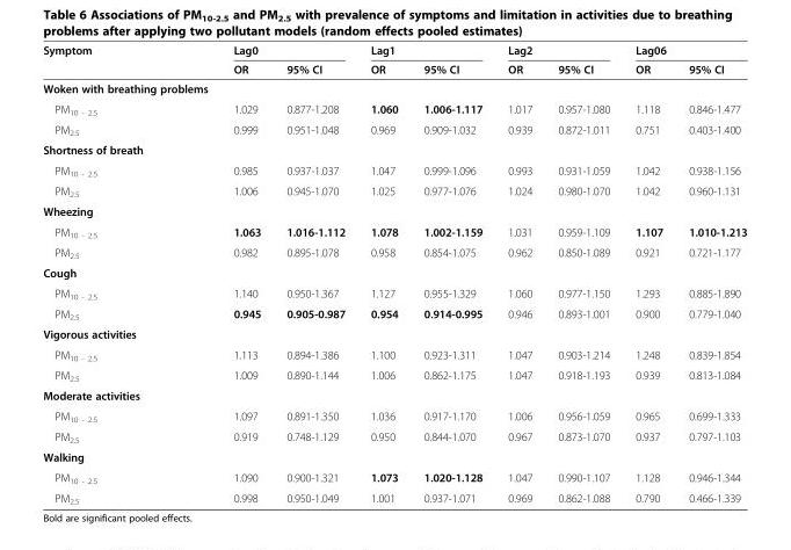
<table><thead><tr><td rowspan="2">Symptom</td><td colspan="2">Lag0</td><td colspan="2">Lag1</td><td colspan="2">Lag2</td><td colspan="2">Lag06</td></tr><tr><td>OR</td><td>95% CI</td><td>OR</td><td>95% CI</td><td>OR</td><td>95% CI</td><td>OR</td><td>95% CI</td></tr></thead><tbody><tr><td colspan="9">Woken with breathing problems</td></tr><tr><td>PM<sub>10 - 2.5</sub></td><td>1.029</td><td>0.877-1.208</td><td>1.060</td><td>1.006-1.117</td><td>1.017</td><td>0.957-1.080</td><td>1.118</td><td>0.846-1.477</td></tr><tr><td>PM<sub>2.5</sub></td><td>0.999</td><td>0.951-1.048</td><td>0.969</td><td>0.909-1.032</td><td>0.939</td><td>0.872-1.011</td><td>0.751</td><td>0.403-1.400</td></tr><tr><td colspan="9">Shortness of breath</td></tr><tr><td>PM<sub>10 - 2.5</sub></td><td>0.985</td><td>0.937-1.037</td><td>1.047</td><td>0.999-1.096</td><td>0.993</td><td>0.931-1.059</td><td>1.042</td><td>0.938-1.156</td></tr><tr><td>PM<sub>2.5</sub></td><td>1.006</td><td>0.945-1.070</td><td>1.025</td><td>0.977-1.076</td><td>1.024</td><td>0.980-1.070</td><td>1.042</td><td>0.960-1.131</td></tr><tr><td colspan="9">Wheezing</td></tr><tr><td>PM<sub>10 - 2.5</sub></td><td>1.063</td><td>1.016-1.112</td><td>1.078</td><td>1.002-1.159</td><td>1.031</td><td>0.959-1.109</td><td>1.107</td><td>1.010-1.213</td></tr><tr><td>PM<sub>2.5</sub></td><td>0.982</td><td>0.895-1.078</td><td>0.958</td><td>0.854-1.075</td><td>0.962</td><td>0.850-1.089</td><td>0.921</td><td>0.721-1.177</td></tr><tr><td colspan="9">Cough</td></tr><tr><td>PM<sub>10 - 2.5</sub></td><td>1.140</td><td>0.950-1.367</td><td>1.127</td><td>0.955-1.329</td><td>1.060</td><td>0.977-1.150</td><td>1.293</td><td>0.885-1.890</td></tr><tr><td>PM<sub>2.5</sub></td><td>0.945</td><td>0.905-0.987</td><td>0.954</td><td>0.914-0.995</td><td>0.946</td><td>0.893-1.001</td><td>0.900</td><td>0.779-1.040</td></tr><tr><td colspan="9">Vigorous activities</td></tr><tr><td>PM<sub>10 - 2.5</sub></td><td>1.113</td><td>0.894-1.386</td><td>1.100</td><td>0.923-1.311</td><td>1.047</td><td>0.903-1.214</td><td>1.248</td><td>0.839-1.854</td></tr><tr><td>PM<sub>2.5</sub></td><td>1.009</td><td>0.890-1.144</td><td>1.006</td><td>0.862-1.175</td><td>1.047</td><td>0.918-1.193</td><td>0.939</td><td>0.813-1.084</td></tr><tr><td colspan="9">Moderate activities</td></tr><tr><td>PM<sub>10 - 2.5</sub></td><td>1.097</td><td>0.891-1.350</td><td>1.036</td><td>0.917-1.170</td><td>1.006</td><td>0.956-1.059</td><td>0.965</td><td>0.699-1.333</td></tr><tr><td>PM<sub>2.5</sub></td><td>0.919</td><td>0.748-1.129</td><td>0.950</td><td>0.844-1.070</td><td>0.967</td><td>0.873-1.070</td><td>0.937</td><td>0.797-1.103</td></tr><tr><td colspan="9">Walking</td></tr><tr><td>PM<sub>10 - 2.5</sub></td><td>1.090</td><td>0.900-1.321</td><td>1.073</td><td>1.020-1.128</td><td>1.047</td><td>0.990-1.107</td><td>1.128</td><td>0.946-1.344</td></tr><tr><td>PM<sub>2.5</sub></td><td>0.998</td><td>0.950-1.049</td><td>1.001</td><td>0.937-1.071</td><td>0.969</td><td>0.862-1.088</td><td>0.790</td><td>0.466-1.339</td></tr></tbody></table>